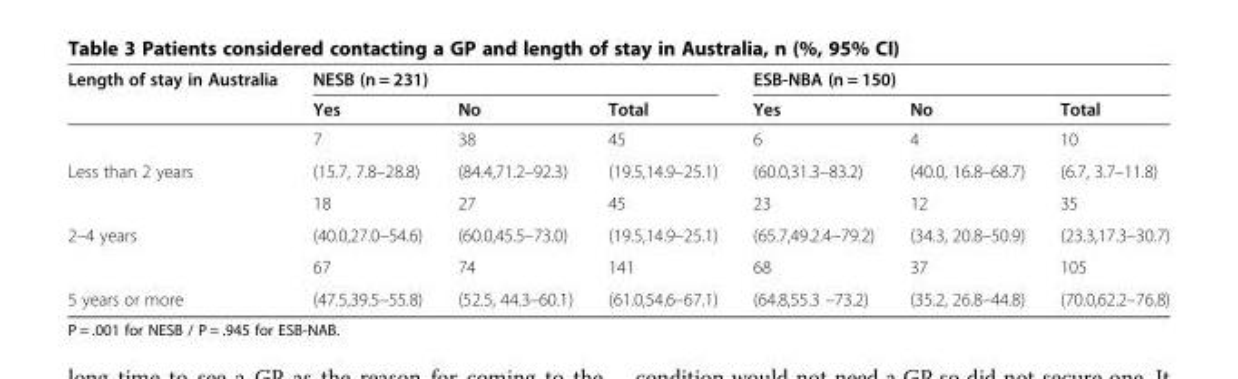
<table><thead><tr><td rowspan="2">Length of stay in Australia</td><td colspan="3">NESB (n = 231)</td><td colspan="3">ESB-NBA (n = 150)</td></tr><tr><td>Yes</td><td>No</td><td>Total</td><td>Yes</td><td>No</td><td>Total</td></tr></thead><tbody><tr><td></td><td>7</td><td>38</td><td>45</td><td>6</td><td>4</td><td>10</td></tr><tr><td rowspan="2">Less than 2 years</td><td>(15.7, 7.8–28.8)</td><td>(84.4,71.2–92.3)</td><td>(19.5,14.9–25.1)</td><td>(60.0,31.3–83.2)</td><td>(40.0, 16.8–68.7)</td><td>(6.7, 3.7–11.8)</td></tr><tr><td>18</td><td>27</td><td>45</td><td>23</td><td>12</td><td>35</td></tr><tr><td rowspan="2">2–4 years</td><td>(40.0,27.0–54.6)</td><td>(60.0,45.5–73.0)</td><td>(19.5,14.9–25.1)</td><td>(65.7,49.2.4–79.2)</td><td>(34.3, 20.8–50.9)</td><td>(23.3,17.3–30.7)</td></tr><tr><td>67</td><td>74</td><td>141</td><td>68</td><td>37</td><td>105</td></tr><tr><td>5 years or more</td><td>(47.5,39.5–55.8)</td><td>(52.5, 44.3–60.1)</td><td>(61.0,54.6–67.1)</td><td>(64.8,55.3 –73.2)</td><td>(35.2, 26.8–44.8)</td><td>(70.0,62.2–76.8)</td></tr></tbody></table>